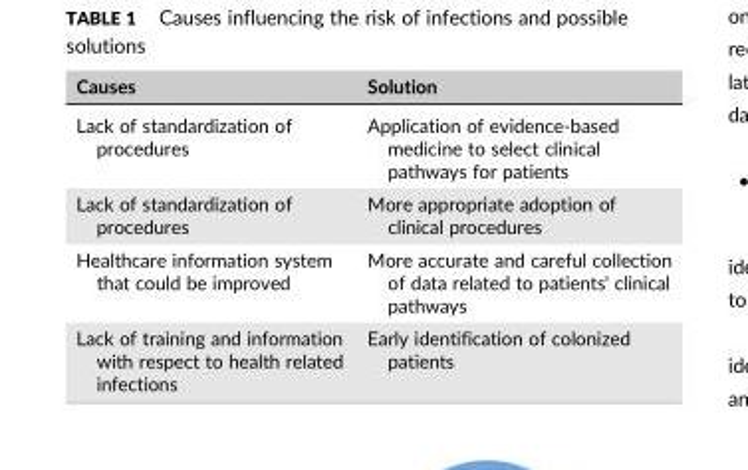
<table><thead><tr><td>Causes</td><td>Solution</td></tr></thead><tbody><tr><td>Lack of standardization of procedures</td><td>Application of evidence‐based medicine to select clinical pathways for patients</td></tr><tr><td>Lack of standardization of procedures</td><td>More appropriate adoption of clinical procedures</td></tr><tr><td>Healthcare information system that could be improved</td><td>More accurate and careful collection of data related to patients&#x27; clinical pathways</td></tr><tr><td>Lack of training and information with respect to health related infections</td><td>Early identification of colonized patients</td></tr></tbody></table>